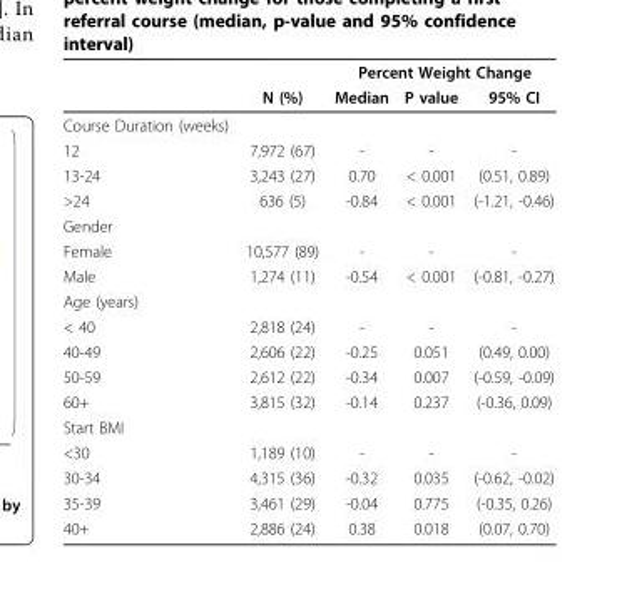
<table><thead><tr><td rowspan="2"></td><td rowspan="2">N (%)</td><td colspan="3">Percent Weight Change</td></tr><tr><td>Median</td><td>P value</td><td>95% CI</td></tr></thead><tbody><tr><td colspan="5">Course Duration (weeks)</td></tr><tr><td>12</td><td>7,972 (67)</td><td>-</td><td>-</td><td>-</td></tr><tr><td>13-24</td><td>3,243 (27)</td><td>0.70</td><td>&lt; 0.001</td><td>(0.51, 0.89)</td></tr><tr><td>&gt;24</td><td>636 (5)</td><td>-0.84</td><td>&lt; 0.001</td><td>(-1.21, -0.46)</td></tr><tr><td colspan="5">Gender</td></tr><tr><td>Female</td><td>10,577 (89)</td><td>-</td><td>-</td><td>-</td></tr><tr><td>Male</td><td>1,274 (11)</td><td>-0.54</td><td>&lt; 0.001</td><td>(-0.81, -0.27)</td></tr><tr><td colspan="5">Age (years)</td></tr><tr><td>&lt; 40</td><td>2,818 (24)</td><td>-</td><td>-</td><td>-</td></tr><tr><td>40-49</td><td>2,606 (22)</td><td>-0.25</td><td>0.051</td><td>(0.49, 0.00)</td></tr><tr><td>50-59</td><td>2,612 (22)</td><td>-0.34</td><td>0.007</td><td>(-0.59, -0.09)</td></tr><tr><td>60+</td><td>3,815 (32)</td><td>-0.14</td><td>0.237</td><td>(-0.36, 0.09)</td></tr><tr><td colspan="5">Start BMI</td></tr><tr><td>&lt;30</td><td>1,189 (10)</td><td>-</td><td>-</td><td>-</td></tr><tr><td>30-34</td><td>4,315 (36)</td><td>-0.32</td><td>0.035</td><td>(-0.62, -0.02)</td></tr><tr><td>35-39</td><td>3,461 (29)</td><td>-0.04</td><td>0.775</td><td>(-0.35, 0.26)</td></tr><tr><td>40+</td><td>2,886 (24)</td><td>0.38</td><td>0.018</td><td>(0.07, 0.70)</td></tr></tbody></table>